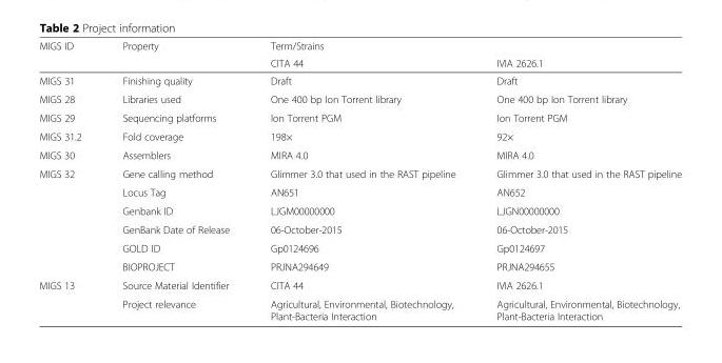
<table><thead><tr><td rowspan="2">MIGS ID</td><td rowspan="2">Property</td><td rowspan="2">Term/Strains CITA 44</td><td rowspan="2">IVIA 2626.1</td></tr><tr></tr></thead><tbody><tr><td>MIGS 31</td><td>Finishing quality</td><td>Draft</td><td>Draft</td></tr><tr><td>MIGS 28</td><td>Libraries used</td><td>One 400 bp Ion Torrent library</td><td>One 400 bp Ion Torrent library</td></tr><tr><td>MIGS 29</td><td>Sequencing platforms</td><td>Ion Torrent PGM</td><td>Ion Torrent PGM</td></tr><tr><td>MIGS 31.2</td><td>Fold coverage</td><td>198×</td><td>92×</td></tr><tr><td>MIGS 30</td><td>Assemblers</td><td>MIRA 4.0</td><td>MIRA 4.0</td></tr><tr><td rowspan="6">MIGS 32</td><td>Gene calling method</td><td>Glimmer 3.0 that used in the RAST pipeline</td><td>Glimmer 3.0 that used in the RAST pipeline</td></tr><tr><td>Locus Tag</td><td>AN651</td><td>AN652</td></tr><tr><td>Genbank ID</td><td>LJGM00000000</td><td>LJGN00000000</td></tr><tr><td>GenBank Date of Release</td><td>06-October-2015</td><td>06-October-2015</td></tr><tr><td>GOLD ID</td><td>Gp0124696</td><td>Gp0124697</td></tr><tr><td>BIOPROJECT</td><td>PRJNA294649</td><td>PRJNA294655</td></tr><tr><td rowspan="2">MIGS 13</td><td>Source Material Identifier</td><td>CITA 44</td><td>IVIA 2626.1</td></tr><tr><td>Project relevance</td><td>Agricultural, Environmental, Biotechnology, Plant-Bacteria Interaction</td><td>Agricultural, Environmental, Biotechnology, Plant-Bacteria Interaction</td></tr></tbody></table>